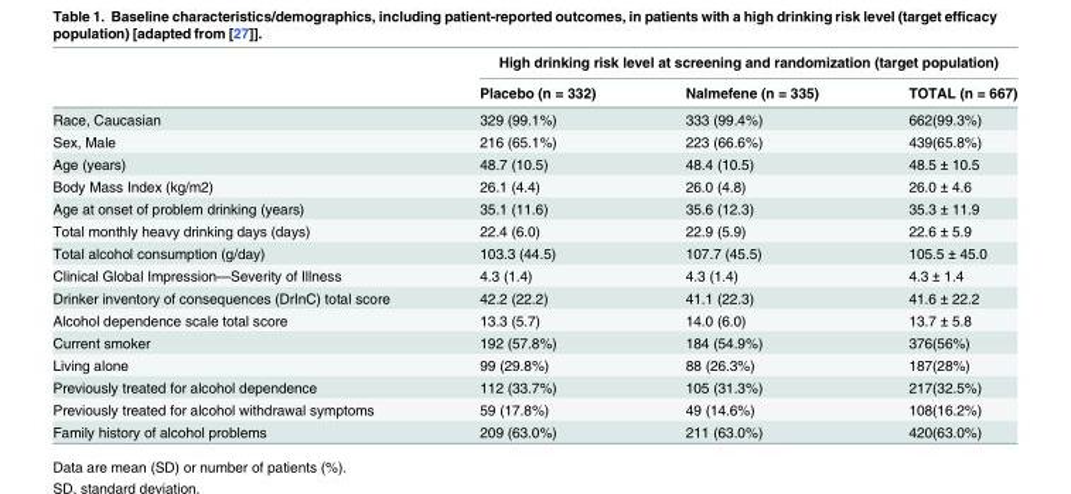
<table><thead><tr><td rowspan="2"></td><td colspan="3">High drinking risk level at screening and randomization (target population)</td></tr><tr><td>Placebo (n = 332)</td><td>Nalmefene (n = 335)</td><td>TOTAL (n = 667)</td></tr></thead><tbody><tr><td>Race, Caucasian</td><td>329 (99.1%)</td><td>333 (99.4%)</td><td>662(99.3%)</td></tr><tr><td>Sex, Male</td><td>216 (65.1%)</td><td>223 (66.6%)</td><td>439(65.8%)</td></tr><tr><td>Age (years)</td><td>48.7 (10.5)</td><td>48.4 (10.5)</td><td>48.5 ± 10.5</td></tr><tr><td>Body Mass Index (kg/m2)</td><td>26.1 (4.4)</td><td>26.0 (4.8)</td><td>26.0 ± 4.6</td></tr><tr><td>Age at onset of problem drinking (years)</td><td>35.1 (11.6)</td><td>35.6 (12.3)</td><td>35.3 ± 11.9</td></tr><tr><td>Total monthly heavy drinking days (days)</td><td>22.4 (6.0)</td><td>22.9 (5.9)</td><td>22.6 ± 5.9</td></tr><tr><td>Total alcohol consumption (g/day)</td><td>103.3 (44.5)</td><td>107.7 (45.5)</td><td>105.5 ± 45.0</td></tr><tr><td>Clinical Global Impression—Severity of Illness</td><td>4.3 (1.4)</td><td>4.3 (1.4)</td><td>4.3 ± 1.4</td></tr><tr><td>Drinker inventory of consequences (DrInC) total score</td><td>42.2 (22.2)</td><td>41.1 (22.3)</td><td>41.6 ± 22.2</td></tr><tr><td>Alcohol dependence scale total score</td><td>13.3 (5.7)</td><td>14.0 (6.0)</td><td>13.7 ± 5.8</td></tr><tr><td>Current smoker</td><td>192 (57.8%)</td><td>184 (54.9%)</td><td>376(56%)</td></tr><tr><td>Living alone</td><td>99 (29.8%)</td><td>88 (26.3%)</td><td>187(28%)</td></tr><tr><td>Previously treated for alcohol dependence</td><td>112 (33.7%)</td><td>105 (31.3%)</td><td>217(32.5%)</td></tr><tr><td>Previously treated for alcohol withdrawal symptoms</td><td>59 (17.8%)</td><td>49 (14.6%)</td><td>108(16.2%)</td></tr><tr><td>Family history of alcohol problems</td><td>209 (63.0%)</td><td>211 (63.0%)</td><td>420(63.0%)</td></tr></tbody></table>